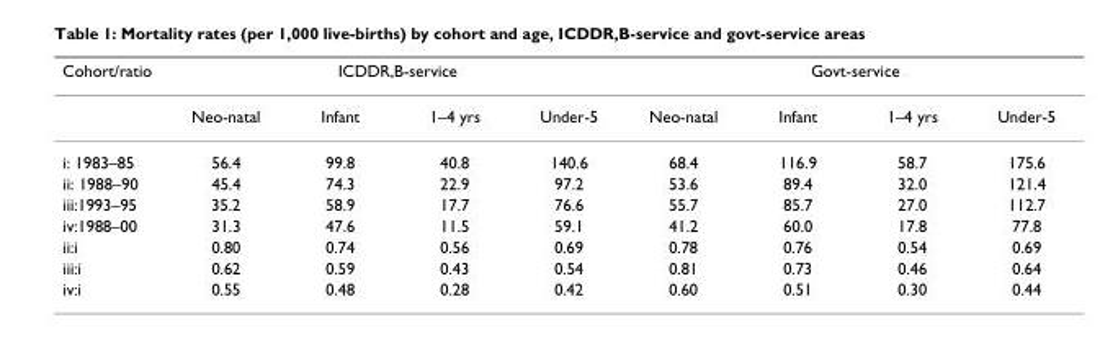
<table><thead><tr><td rowspan="2">Cohort/ratio</td><td colspan="4">ICDDR,B-service</td><td colspan="4">Govt-service</td></tr><tr><td>Neo-natal</td><td>Infant</td><td>1–4 yrs</td><td>Under-5</td><td>Neo-natal</td><td>Infant</td><td>1–4 yrs</td><td>Under-5</td></tr></thead><tbody><tr><td>i: 1983–85</td><td>56.4</td><td>99.8</td><td>40.8</td><td>140.6</td><td>68.4</td><td>116.9</td><td>58.7</td><td>175.6</td></tr><tr><td>ii: 1988–90</td><td>45.4</td><td>74.3</td><td>22.9</td><td>97.2</td><td>53.6</td><td>89.4</td><td>32.0</td><td>121.4</td></tr><tr><td>iii:1993–95</td><td>35.2</td><td>58.9</td><td>17.7</td><td>76.6</td><td>55.7</td><td>85.7</td><td>27.0</td><td>112.7</td></tr><tr><td>iv:1988–00</td><td>31.3</td><td>47.6</td><td>11.5</td><td>59.1</td><td>41.2</td><td>60.0</td><td>17.8</td><td>77.8</td></tr><tr><td>ii:i</td><td>0.80</td><td>0.74</td><td>0.56</td><td>0.69</td><td>0.78</td><td>0.76</td><td>0.54</td><td>0.69</td></tr><tr><td>iii:i</td><td>0.62</td><td>0.59</td><td>0.43</td><td>0.54</td><td>0.81</td><td>0.73</td><td>0.46</td><td>0.64</td></tr><tr><td>iv:i</td><td>0.55</td><td>0.48</td><td>0.28</td><td>0.42</td><td>0.60</td><td>0.51</td><td>0.30</td><td>0.44</td></tr></tbody></table>